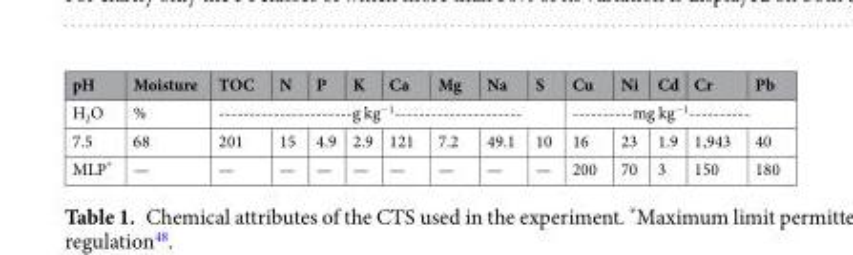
<table><thead><tr><td>pH</td><td>Moisture</td><td>TOC</td><td>N</td><td>P</td><td>K</td><td>Ca</td><td>Mg</td><td>Na</td><td>S</td><td>Cu</td><td>Ni</td><td>Cd</td><td>Cr</td><td>Pb</td></tr></thead><tbody><tr><td>H<sub>2</sub>O</td><td>%</td><td colspan="8">----------------------g kg<sup>−1</sup>---------------------</td><td colspan="5">----------mg kg<sup>−1</sup>----------</td></tr><tr><td>7.5</td><td>68</td><td>201</td><td>15</td><td>4.9</td><td>2.9</td><td>121</td><td>7.2</td><td>49.1</td><td>10</td><td>16</td><td>23</td><td>1.9</td><td>1,943</td><td>40</td></tr><tr><td>MLP*</td><td>—</td><td>—</td><td>—</td><td>—</td><td>—</td><td>—</td><td>—</td><td>—</td><td>—</td><td>200</td><td>70</td><td>3</td><td>150</td><td>180</td></tr></tbody></table>